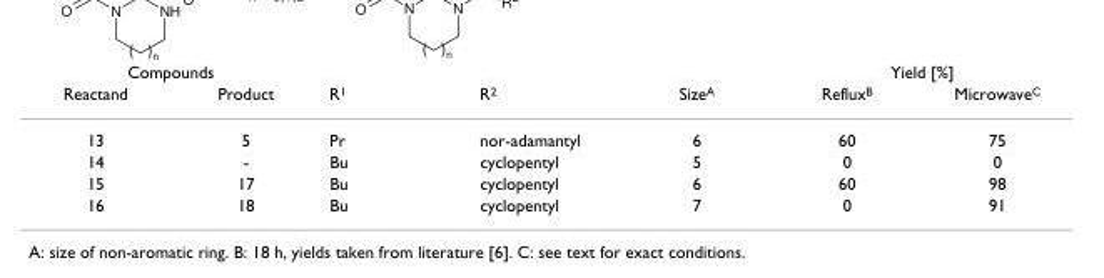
<table><thead><tr><td colspan="2">Compounds</td><td rowspan="2">R<sup>1</sup></td><td rowspan="2">R<sup>2</sup></td><td rowspan="2">Size<sup>A</sup></td><td colspan="2">Yield [%]</td></tr><tr><td>Reactand</td><td>Product</td><td>Reflux<sup>B</sup></td><td>Microwave<sup>C</sup></td></tr></thead><tbody><tr><td>13</td><td>5</td><td>Pr</td><td>nor-adamantyl</td><td>6</td><td>60</td><td>75</td></tr><tr><td>14</td><td>-</td><td>Bu</td><td>cyclopentyl</td><td>5</td><td>0</td><td>0</td></tr><tr><td>15</td><td>17</td><td>Bu</td><td>cyclopentyl</td><td>6</td><td>60</td><td>98</td></tr><tr><td>16</td><td>18</td><td>Bu</td><td>cyclopentyl</td><td>7</td><td>0</td><td>91</td></tr></tbody></table>